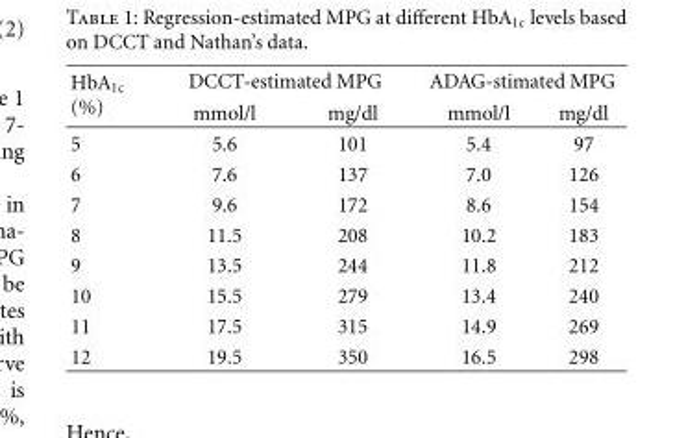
<table><thead><tr><td rowspan="2">HbA<sub>1c</sub> (%)</td><td colspan="2">DCCT-estimated MPG</td><td colspan="2">ADAG-stimated MPG</td></tr><tr><td>mmol/l</td><td>mg/dl</td><td>mmol/l</td><td>mg/dl</td></tr></thead><tbody><tr><td>5</td><td>5.6</td><td>101</td><td>5.4</td><td>97</td></tr><tr><td>6</td><td>7.6</td><td>137</td><td>7.0</td><td>126</td></tr><tr><td>7</td><td>9.6</td><td>172</td><td>8.6</td><td>154</td></tr><tr><td>8</td><td>11.5</td><td>208</td><td>10.2</td><td>183</td></tr><tr><td>9</td><td>13.5</td><td>244</td><td>11.8</td><td>212</td></tr><tr><td>10</td><td>15.5</td><td>279</td><td>13.4</td><td>240</td></tr><tr><td>11</td><td>17.5</td><td>315</td><td>14.9</td><td>269</td></tr><tr><td>12</td><td>19.5</td><td>350</td><td>16.5</td><td>298</td></tr></tbody></table>